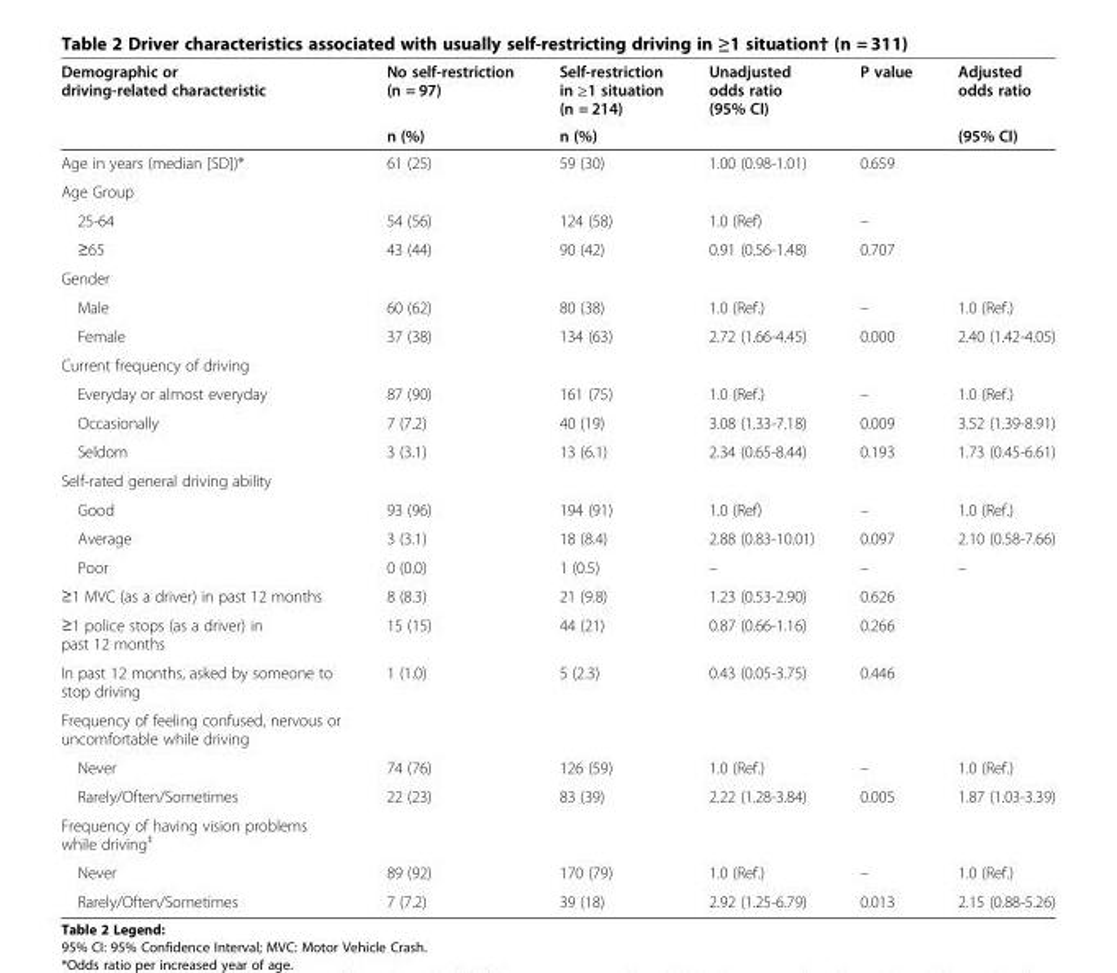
<table><thead><tr><td rowspan="2">Demographic or driving-related characteristic</td><td rowspan="2">No self-restriction (n = 97) n (%)</td><td rowspan="2">Self-restriction in ≥1 situation (n = 214) n (%)</td><td rowspan="2">Unadjusted odds ratio (95% CI)</td><td rowspan="2">P value</td><td rowspan="2">Adjusted odds ratio (95% CI)</td></tr><tr></tr></thead><tbody><tr><td>Age in years (median [SD])*</td><td>61 (25)</td><td>59 (30)</td><td>1.00 (0.98-1.01)</td><td>0.659</td><td></td></tr><tr><td colspan="5">Age Group</td><td rowspan="3"></td></tr><tr><td>25-64</td><td>54 (56)</td><td>124 (58)</td><td>1.0 (Ref)</td><td>–</td></tr><tr><td>≥65</td><td>43 (44)</td><td>90 (42)</td><td>0.91 (0.56-1.48)</td><td>0.707</td></tr><tr><td colspan="6">Gender</td></tr><tr><td>Male</td><td>60 (62)</td><td>80 (38)</td><td>1.0 (Ref.)</td><td>–</td><td>1.0 (Ref.)</td></tr><tr><td>Female</td><td>37 (38)</td><td>134 (63)</td><td>2.72 (1.66-4.45)</td><td>0.000</td><td>2.40 (1.42-4.05)</td></tr><tr><td colspan="6">Current frequency of driving</td></tr><tr><td>Everyday or almost everyday</td><td>87 (90)</td><td>161 (75)</td><td>1.0 (Ref.)</td><td>–</td><td>1.0 (Ref.)</td></tr><tr><td>Occasionally</td><td>7 (7.2)</td><td>40 (19)</td><td>3.08 (1.33-7.18)</td><td>0.009</td><td>3.52 (1.39-8.91)</td></tr><tr><td>Seldom</td><td>3 (3.1)</td><td>13 (6.1)</td><td>2.34 (0.65-8.44)</td><td>0.193</td><td>1.73 (0.45-6.61)</td></tr><tr><td colspan="6">Self-rated general driving ability</td></tr><tr><td>Good</td><td>93 (96)</td><td>194 (91)</td><td>1.0 (Ref)</td><td>–</td><td>1.0 (Ref.)</td></tr><tr><td>Average</td><td>3 (3.1)</td><td>18 (8.4)</td><td>2.88 (0.83-10.01)</td><td>0.097</td><td>2.10 (0.58-7.66)</td></tr><tr><td>Poor</td><td>0 (0.0)</td><td>1 (0.5)</td><td>–</td><td>–</td><td>–</td></tr><tr><td>≥1 MVC (as a driver) in past 12 months</td><td>8 (8.3)</td><td>21 (9.8)</td><td>1.23 (0.53-2.90)</td><td>0.626</td><td></td></tr><tr><td>≥1 police stops (as a driver) in past 12 months</td><td>15 (15)</td><td>44 (21)</td><td>0.87 (0.66-1.16)</td><td>0.266</td><td></td></tr><tr><td>In past 12 months, asked by someone to stop driving</td><td>1 (1.0)</td><td>5 (2.3)</td><td>0.43 (0.05-3.75)</td><td>0.446</td><td></td></tr><tr><td colspan="6">Frequency of feeling confused, nervous or uncomfortable while driving</td></tr><tr><td>Never</td><td>74 (76)</td><td>126 (59)</td><td>1.0 (Ref.)</td><td>–</td><td>1.0 (Ref.)</td></tr><tr><td>Rarely/Often/Sometimes</td><td>22 (23)</td><td>83 (39)</td><td>2.22 (1.28-3.84)</td><td>0.005</td><td>1.87 (1.03-3.39)</td></tr><tr><td colspan="6">Frequency of having vision problems while driving<sup>‡</sup></td></tr><tr><td>Never</td><td>89 (92)</td><td>170 (79)</td><td>1.0 (Ref.)</td><td>–</td><td>1.0 (Ref.)</td></tr><tr><td>Rarely/Often/Sometimes</td><td>7 (7.2)</td><td>39 (18)</td><td>2.92 (1.25-6.79)</td><td>0.013</td><td>2.15 (0.88-5.26)</td></tr></tbody></table>